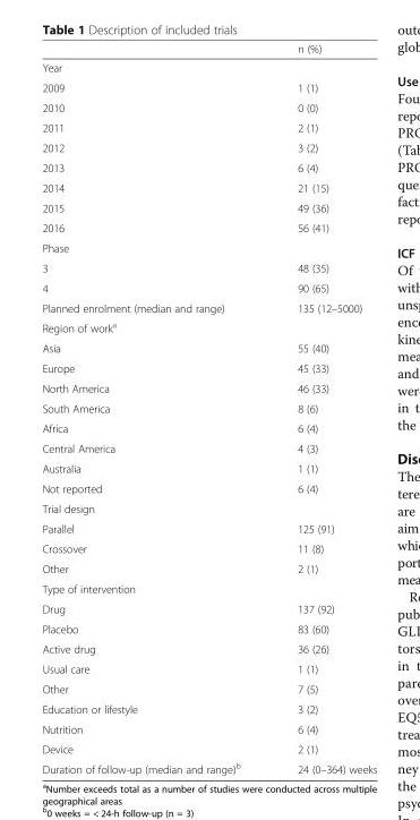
<table><thead><tr><td></td><td>n (%)</td></tr></thead><tbody><tr><td colspan="2">Year</td></tr><tr><td>2009</td><td>1 (1)</td></tr><tr><td>2010</td><td>0 (0)</td></tr><tr><td>2011</td><td>2 (1)</td></tr><tr><td>2012</td><td>3 (2)</td></tr><tr><td>2013</td><td>6 (4)</td></tr><tr><td>2014</td><td>21 (15)</td></tr><tr><td>2015</td><td>49 (36)</td></tr><tr><td>2016</td><td>56 (41)</td></tr><tr><td colspan="2">Phase</td></tr><tr><td>3</td><td>48 (35)</td></tr><tr><td>4</td><td>90 (65)</td></tr><tr><td>Planned enrolment (median and range)</td><td>135 (12–5000)</td></tr><tr><td colspan="2">Region of work<sup>a</sup></td></tr><tr><td>Asia</td><td>55 (40)</td></tr><tr><td>Europe</td><td>45 (33)</td></tr><tr><td>North America</td><td>46 (33)</td></tr><tr><td>South America</td><td>8 (6)</td></tr><tr><td>Africa</td><td>6 (4)</td></tr><tr><td>Central America</td><td>4 (3)</td></tr><tr><td>Australia</td><td>1 (1)</td></tr><tr><td>Not reported</td><td>6 (4)</td></tr><tr><td colspan="2">Trial design</td></tr><tr><td>Parallel</td><td>125 (91)</td></tr><tr><td>Crossover</td><td>11 (8)</td></tr><tr><td>Other</td><td>2 (1)</td></tr><tr><td colspan="2">Type of intervention</td></tr><tr><td>Drug</td><td>137 (92)</td></tr><tr><td>Placebo</td><td>83 (60)</td></tr><tr><td>Active drug</td><td>36 (26)</td></tr><tr><td>Usual care</td><td>1 (1)</td></tr><tr><td>Other</td><td>7 (5)</td></tr><tr><td>Education or lifestyle</td><td>3 (2)</td></tr><tr><td>Nutrition</td><td>6 (4)</td></tr><tr><td>Device</td><td>2 (1)</td></tr><tr><td>Duration of follow-up (median and range)<sup>b</sup></td><td>24 (0–364) weeks</td></tr></tbody></table>